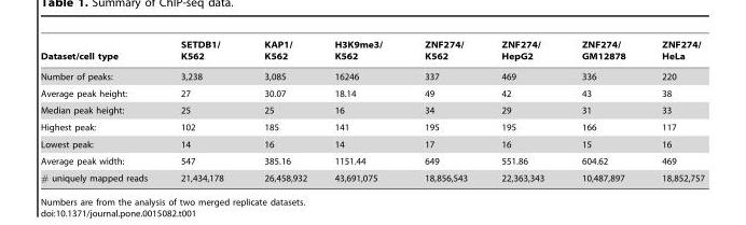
<table><thead><tr><td>Dataset/cell type</td><td>SETDB1/ K562</td><td>KAP1/ K562</td><td>H3K9me3/ K562</td><td>ZNF274/ K562</td><td>ZNF274/ HepG2</td><td>ZNF274/ GM12878</td><td>ZNF274/ HeLa</td></tr></thead><tbody><tr><td>Number of peaks:</td><td>3,238</td><td>3,085</td><td>16246</td><td>337</td><td>469</td><td>336</td><td>220</td></tr><tr><td>Average peak height:</td><td>27</td><td>30.07</td><td>18.14</td><td>49</td><td>42</td><td>43</td><td>38</td></tr><tr><td>Median peak height:</td><td>25</td><td>25</td><td>16</td><td>34</td><td>29</td><td>31</td><td>33</td></tr><tr><td>Highest peak:</td><td>102</td><td>185</td><td>141</td><td>195</td><td>195</td><td>166</td><td>117</td></tr><tr><td>Lowest peak:</td><td>14</td><td>16</td><td>14</td><td>17</td><td>16</td><td>15</td><td>16</td></tr><tr><td>Average peak width:</td><td>547</td><td>385.16</td><td>1151.44</td><td>649</td><td>551.86</td><td>604.62</td><td>469</td></tr><tr><td># uniquely mapped reads</td><td>21,434,178</td><td>26,458,932</td><td>43,691,075</td><td>18,856,543</td><td>22,363,343</td><td>10,487,897</td><td>18,852,757</td></tr></tbody></table>